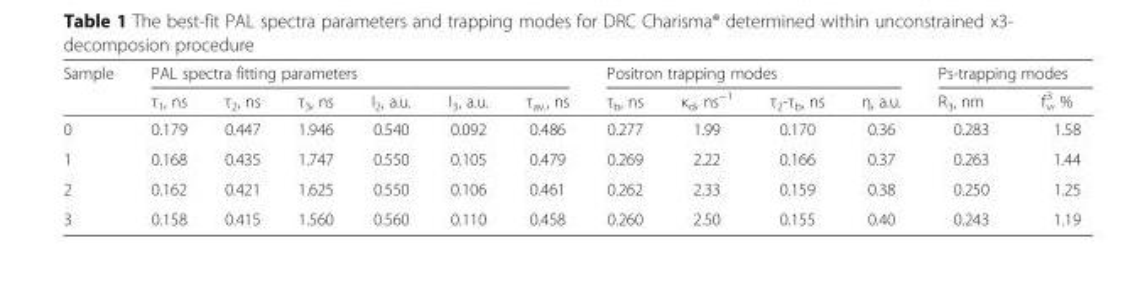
<table><thead><tr><td rowspan="2">Sample</td><td colspan="6">PAL spectra fitting parameters</td><td colspan="4">Positron trapping modes</td><td colspan="2">Ps-trapping modes</td></tr><tr><td>τ<sub>1</sub>, ns</td><td>τ<sub>2</sub>, ns</td><td>τ<sub>3</sub>, ns</td><td>I<sub>2</sub>, a.u.</td><td>I<sub>3</sub>, a.u.</td><td>τ<sub>av.</sub>, ns</td><td>τ<sub>b</sub>, ns</td><td>κ<sub>d</sub>, ns<sup>−1</sup></td><td>τ<sub>2</sub>-τ<sub>b</sub>, ns</td><td>η, a.u.</td><td>R<sub>3</sub>, nm</td><td>f<sub>v</sub> <sup>3</sup>, %</td></tr></thead><tbody><tr><td>0</td><td>0.179</td><td>0.447</td><td>1.946</td><td>0.540</td><td>0.092</td><td>0.486</td><td>0.277</td><td>1.99</td><td>0.170</td><td>0.36</td><td>0.283</td><td>1.58</td></tr><tr><td>1</td><td>0.168</td><td>0.435</td><td>1.747</td><td>0.550</td><td>0.105</td><td>0.479</td><td>0.269</td><td>2.22</td><td>0.166</td><td>0.37</td><td>0.263</td><td>1.44</td></tr><tr><td>2</td><td>0.162</td><td>0.421</td><td>1.625</td><td>0.550</td><td>0.106</td><td>0.461</td><td>0.262</td><td>2.33</td><td>0.159</td><td>0.38</td><td>0.250</td><td>1.25</td></tr><tr><td>3</td><td>0.158</td><td>0.415</td><td>1.560</td><td>0.560</td><td>0.110</td><td>0.458</td><td>0.260</td><td>2.50</td><td>0.155</td><td>0.40</td><td>0.243</td><td>1.19</td></tr></tbody></table>